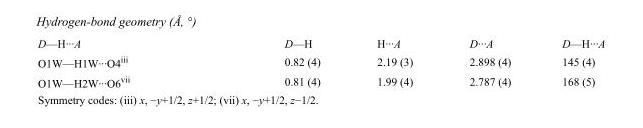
<table><tbody><tr><td>D—H···A</td><td>D—H</td><td>H···A</td><td>D···A</td><td>D—H···A</td></tr><tr><td>O1W—H1W···O4<sup>iii</sup></td><td>0.82 (4)</td><td>2.19 (3)</td><td>2.898 (4)</td><td>145 (4)</td></tr><tr><td>O1W—H2W···O6<sup>vii</sup></td><td>0.81 (4)</td><td>1.99 (4)</td><td>2.787 (4)</td><td>168 (5)</td></tr></tbody></table>